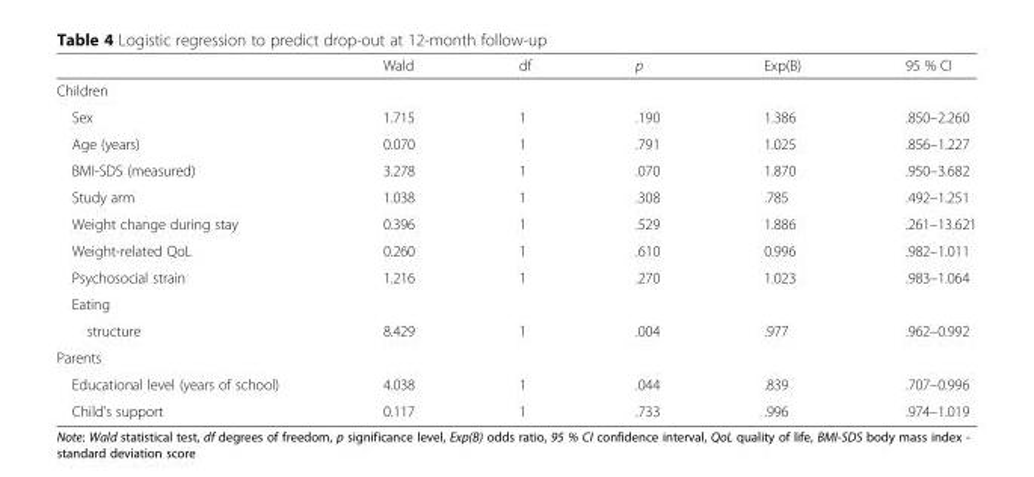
<table><thead><tr><td></td><td>Wald</td><td>df</td><td>p</td><td>Exp(B)</td><td>95 % CI</td></tr></thead><tbody><tr><td colspan="6">Children</td></tr><tr><td>Sex</td><td>1.715</td><td>1</td><td>.190</td><td>1.386</td><td>.850–2.260</td></tr><tr><td>Age (years)</td><td>0.070</td><td>1</td><td>.791</td><td>1.025</td><td>.856–1.227</td></tr><tr><td>BMI-SDS (measured)</td><td>3.278</td><td>1</td><td>.070</td><td>1.870</td><td>.950–3.682</td></tr><tr><td>Study arm</td><td>1.038</td><td>1</td><td>.308</td><td>.785</td><td>.492–1.251</td></tr><tr><td>Weight change during stay</td><td>0.396</td><td>1</td><td>.529</td><td>1.886</td><td>.261–13.621</td></tr><tr><td>Weight-related QoL</td><td>0.260</td><td>1</td><td>.610</td><td>0.996</td><td>.982–1.011</td></tr><tr><td>Psychosocial strain</td><td>1.216</td><td>1</td><td>.270</td><td>1.023</td><td>.983–1.064</td></tr><tr><td colspan="6">Eating</td></tr><tr><td>structure</td><td>8.429</td><td>1</td><td>.004</td><td>.977</td><td>.962–0.992</td></tr><tr><td colspan="6">Parents</td></tr><tr><td>Educational level (years of school)</td><td>4.038</td><td>1</td><td>.044</td><td>.839</td><td>.707–0.996</td></tr><tr><td>Child’s support</td><td>0.117</td><td>1</td><td>.733</td><td>.996</td><td>.974–1.019</td></tr></tbody></table>